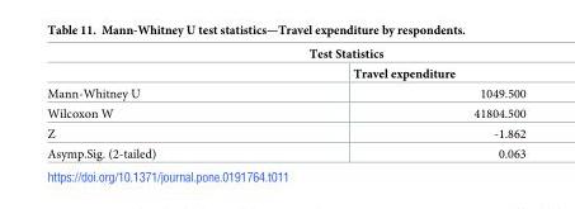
<table><thead><tr><td colspan="2">Test Statistics</td></tr><tr><td></td><td>Travel expenditure</td></tr></thead><tbody><tr><td>Mann-Whitney U</td><td>1049.500</td></tr><tr><td>Wilcoxon W</td><td>41804.500</td></tr><tr><td>Z</td><td>-1.862</td></tr><tr><td>Asymp.Sig. (2-tailed)</td><td>0.063</td></tr></tbody></table>